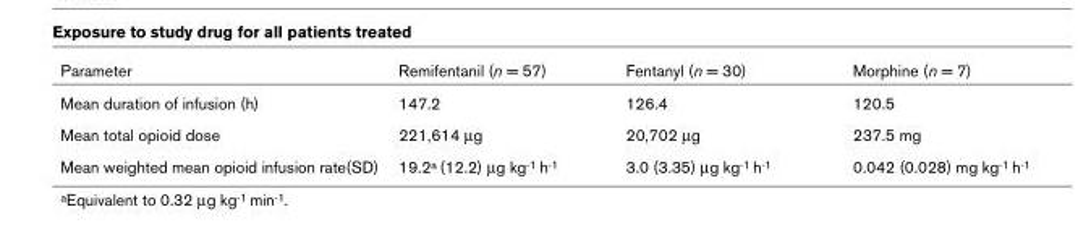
<table><thead><tr><td>Parameter</td><td>Remifentanil (n = 57)</td><td>Fentanyl (n = 30)</td><td>Morphine (n = 7)</td></tr></thead><tbody><tr><td>Mean duration of infusion (h)</td><td>147.2</td><td>126.4</td><td>120.5</td></tr><tr><td>Mean total opioid dose</td><td>221,614 µg</td><td>20,702 µg</td><td>237.5 mg</td></tr><tr><td>Mean weighted mean opioid infusion rate(SD)</td><td>19.2a (12.2) µg kg-1 h-1</td><td>3.0 (3.35) µg kg-1 h-1</td><td>0.042 (0.028) mg kg-1 h-1</td></tr></tbody></table>